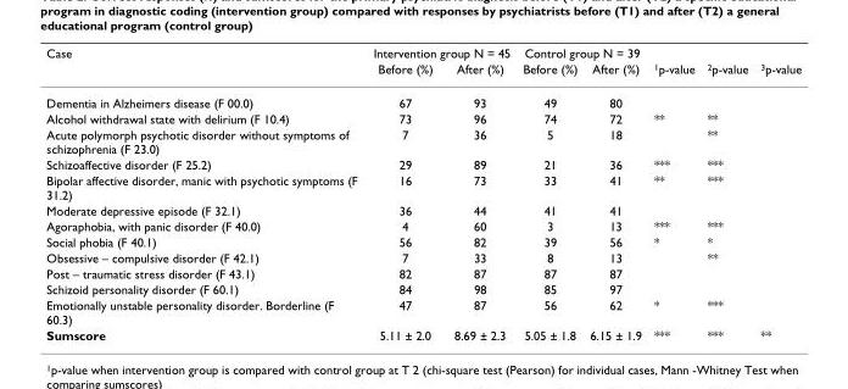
<table><thead><tr><td rowspan="2">Case</td><td colspan="2">Intervention group N = 45</td><td colspan="2">Control group N = 39</td><td rowspan="2"><sup>1</sup>p-value</td><td rowspan="2"><sup>2</sup>p-value</td><td rowspan="2"><sup>3</sup>p-value</td></tr><tr><td>Before (%)</td><td>After (%)</td><td>Before (%)</td><td>After (%)</td></tr></thead><tbody><tr><td>Dementia in Alzheimers disease (F 00.0)</td><td>67</td><td>93</td><td>49</td><td>80</td><td></td><td></td><td></td></tr><tr><td>Alcohol withdrawal state with delirium (F 10.4)</td><td>73</td><td>96</td><td>74</td><td>72</td><td>**</td><td>**</td><td></td></tr><tr><td>Acute polymorph psychotic disorder without symptoms of schizophrenia (F 23.0)</td><td>7</td><td>36</td><td>5</td><td>18</td><td></td><td>**</td><td></td></tr><tr><td>Schizoaffective disorder (F 25.2)</td><td>29</td><td>89</td><td>21</td><td>36</td><td>***</td><td>***</td><td></td></tr><tr><td>Bipolar affective disorder, manic with psychotic symptoms (F 31.2)</td><td>16</td><td>73</td><td>33</td><td>41</td><td>**</td><td>***</td><td></td></tr><tr><td>Moderate depressive episode (F 32.1)</td><td>36</td><td>44</td><td>41</td><td>41</td><td></td><td></td><td></td></tr><tr><td>Agoraphobia, with panic disorder (F 40.0)</td><td>4</td><td>60</td><td>3</td><td>13</td><td>***</td><td>***</td><td></td></tr><tr><td>Social phobia (F 40.1)</td><td>56</td><td>82</td><td>39</td><td>56</td><td>*</td><td>*</td><td></td></tr><tr><td>Obsessive – compulsive disorder (F 42.1)</td><td>7</td><td>33</td><td>8</td><td>13</td><td></td><td>**</td><td></td></tr><tr><td>Post – traumatic stress disorder (F 43.1)</td><td>82</td><td>87</td><td>87</td><td>87</td><td></td><td></td><td></td></tr><tr><td>Schizoid personality disorder (F 60.1)</td><td>84</td><td>98</td><td>85</td><td>97</td><td></td><td></td><td></td></tr><tr><td>Emotionally unstable personality disorder. Borderline (F 60.3)</td><td>47</td><td>87</td><td>56</td><td>62</td><td>*</td><td>***</td><td></td></tr><tr><td>Sumscore</td><td>5.11 ± 2.0</td><td>8.69 ± 2.3</td><td>5.05 ± 1.8</td><td>6.15 ± 1.9</td><td>***</td><td>***</td><td>**</td></tr></tbody></table>